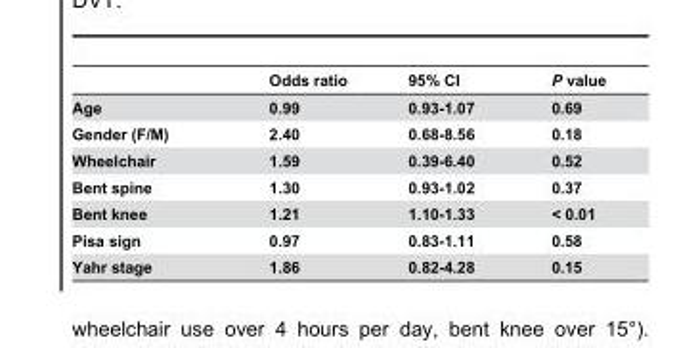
<table><thead><tr><td></td><td>Odds ratio</td><td>95% CI</td><td>P value</td></tr></thead><tbody><tr><td>Age</td><td>0.99</td><td>0.93-1.07</td><td>0.69</td></tr><tr><td>Gender (F/M)</td><td>2.40</td><td>0.68-8.56</td><td>0.18</td></tr><tr><td>Wheelchair</td><td>1.59</td><td>0.39-6.40</td><td>0.52</td></tr><tr><td>Bent spine</td><td>1.30</td><td>0.93-1.02</td><td>0.37</td></tr><tr><td>Bent knee</td><td>1.21</td><td>1.10-1.33</td><td>&lt; 0.01</td></tr><tr><td>Pisa sign</td><td>0.97</td><td>0.83-1.11</td><td>0.58</td></tr><tr><td>Yahr stage</td><td>1.86</td><td>0.82-4.28</td><td>0.15</td></tr></tbody></table>